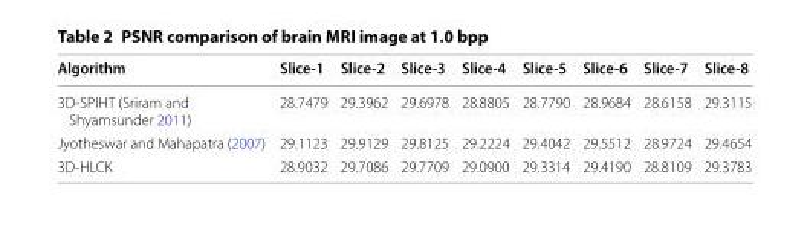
<table><thead><tr><td>Algorithm</td><td>Slice‑1</td><td>Slice‑2</td><td>Slice‑3</td><td>Slice‑4</td><td>Slice‑5</td><td>Slice‑6</td><td>Slice‑7</td><td>Slice‑8</td></tr></thead><tbody><tr><td>3D-SPIHT (Sriram and Shyamsunder 2011)</td><td>28.7479</td><td>29.3962</td><td>29.6978</td><td>28.8805</td><td>28.7790</td><td>28.9684</td><td>28.6158</td><td>29.3115</td></tr><tr><td>Jyotheswar and Mahapatra (2007)</td><td>29.1123</td><td>29.9129</td><td>29.8125</td><td>29.2224</td><td>29.4042</td><td>29.5512</td><td>28.9724</td><td>29.4654</td></tr><tr><td>3D-HLCK</td><td>28.9032</td><td>29.7086</td><td>29.7709</td><td>29.0900</td><td>29.3314</td><td>29.4190</td><td>28.8109</td><td>29.3783</td></tr></tbody></table>